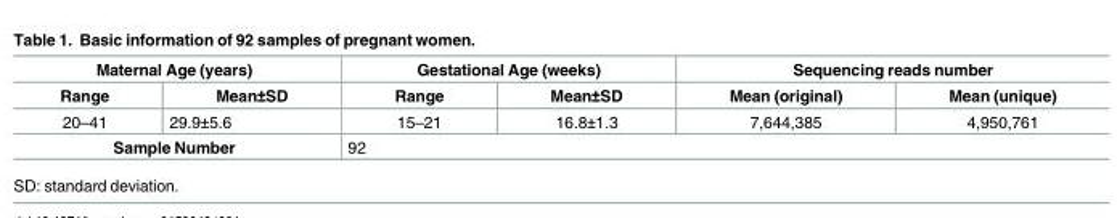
<table><thead><tr><td colspan="2">Maternal Age (years)</td><td colspan="2">Gestational Age (weeks)</td><td colspan="2">Sequencing reads number</td></tr><tr><td>Range</td><td>Mean±SD</td><td>Range</td><td>Mean±SD</td><td>Mean (original)</td><td>Mean (unique)</td></tr></thead><tbody><tr><td>20–41</td><td>29.9±5.6</td><td>15–21</td><td>16.8±1.3</td><td>7,644,385</td><td>4,950,761</td></tr><tr><td colspan="2">Sample Number</td><td colspan="4">92</td></tr></tbody></table>